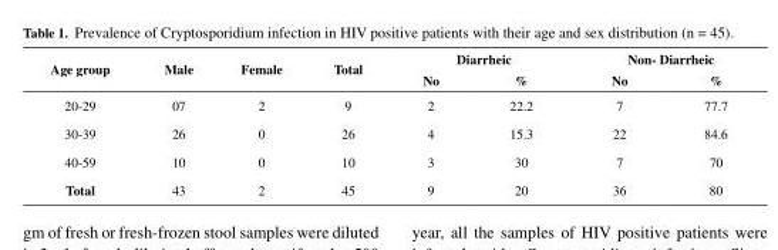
<table><thead><tr><td rowspan="2">Age group</td><td rowspan="2">Male</td><td rowspan="2">Female</td><td rowspan="2">Total</td><td colspan="2">Diarrheic</td><td colspan="2">Non- Diarrheic</td></tr><tr><td>No</td><td>%</td><td>No</td><td>%</td></tr></thead><tbody><tr><td>20-29</td><td>07</td><td>2</td><td>9</td><td>2</td><td>22.2</td><td>7</td><td>77.7</td></tr><tr><td>30-39</td><td>26</td><td>0</td><td>26</td><td>4</td><td>15.3</td><td>22</td><td>84.6</td></tr><tr><td>40-59</td><td>10</td><td>0</td><td>10</td><td>3</td><td>30</td><td>7</td><td>70</td></tr><tr><td>Total</td><td>43</td><td>2</td><td>45</td><td>9</td><td>20</td><td>36</td><td>80</td></tr></tbody></table>